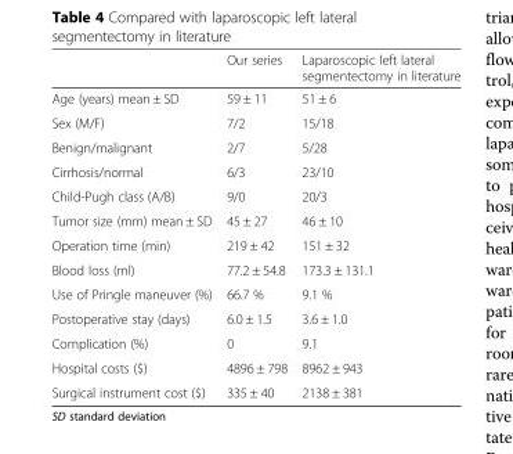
<table><thead><tr><td></td><td>Our series</td><td>Laparoscopic left lateral segmentectomy in literature</td></tr></thead><tbody><tr><td>Age (years) mean ± SD</td><td>59 ± 11</td><td>51 ± 6</td></tr><tr><td>Sex (M/F)</td><td>7/2</td><td>15/18</td></tr><tr><td>Benign/malignant</td><td>2/7</td><td>5/28</td></tr><tr><td>Cirrhosis/normal</td><td>6/3</td><td>23/10</td></tr><tr><td>Child-Pugh class (A/B)</td><td>9/0</td><td>20/3</td></tr><tr><td>Tumor size (mm) mean ± SD</td><td>45 ± 27</td><td>46 ± 10</td></tr><tr><td>Operation time (min)</td><td>219 ± 42</td><td>151 ± 32</td></tr><tr><td>Blood loss (ml)</td><td>77.2 ± 54.8</td><td>173.3 ± 131.1</td></tr><tr><td>Use of Pringle maneuver (%)</td><td>66.7 %</td><td>9.1 %</td></tr><tr><td>Postoperative stay (days)</td><td>6.0 ± 1.5</td><td>3.6 ± 1.0</td></tr><tr><td>Complication (%)</td><td>0</td><td>9.1</td></tr><tr><td>Hospital costs ($)</td><td>4896 ± 798</td><td>8962 ± 943</td></tr><tr><td>Surgical instrument cost ($)</td><td>335 ± 40</td><td>2138 ± 381</td></tr></tbody></table>